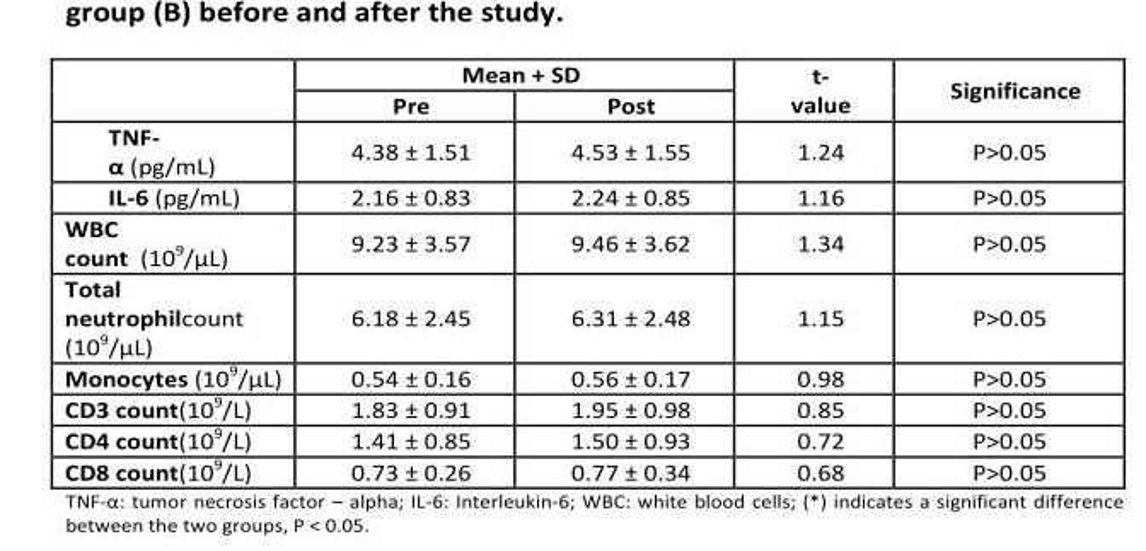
<table><thead><tr><td rowspan="2"></td><td colspan="2">Mean + SD</td><td rowspan="2">t- value</td><td rowspan="2">Significance</td></tr><tr><td>Pre</td><td>Post</td></tr></thead><tbody><tr><td>TNF- α (pg/mL)</td><td>4.38 ± 1.51</td><td>4.53 ± 1.55</td><td>1.24</td><td>P&gt;0.05</td></tr><tr><td>IL-6 (pg/mL)</td><td>2.16 ± 0.83</td><td>2.24 ± 0.85</td><td>1.16</td><td>P&gt;0.05</td></tr><tr><td>WBC count (10<sup>9</sup>/µL)</td><td>9.23 ± 3.57</td><td>9.46 ± 3.62</td><td>1.34</td><td>P&gt;0.05</td></tr><tr><td>Total neutrophilcount (10<sup>9</sup>/µL)</td><td>6.18 ± 2.45</td><td>6.31 ± 2.48</td><td>1.15</td><td>P&gt;0.05</td></tr><tr><td>Monocytes (10<sup>9</sup>/µL)</td><td>0.54 ± 0.16</td><td>0.56 ± 0.17</td><td>0.98</td><td>P&gt;0.05</td></tr><tr><td>CD3 count(10<sup>9</sup>/L)</td><td>1.83 ± 0.91</td><td>1.95 ± 0.98</td><td>0.85</td><td>P&gt;0.05</td></tr><tr><td>CD4 count(10<sup>9</sup>/L)</td><td>1.41 ± 0.85</td><td>1.50 ± 0.93</td><td>0.72</td><td>P&gt;0.05</td></tr><tr><td>CD8 count(10<sup>9</sup>/L)</td><td>0.73 ± 0.26</td><td>0.77 ± 0.34</td><td>0.68</td><td>P&gt;0.05</td></tr></tbody></table>